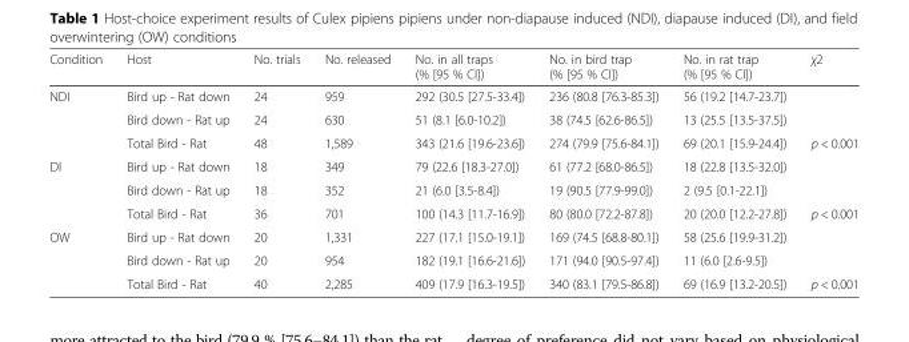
<table><thead><tr><td>Condition</td><td>Host</td><td>No. trials</td><td>No. released</td><td>No. in all traps (% [95 % CI])</td><td>No. in bird trap (% [95 % CI])</td><td>No. in rat trap (% [95 % CI])</td><td>χ2</td></tr></thead><tbody><tr><td rowspan="3">NDI</td><td>Bird up - Rat down</td><td>24</td><td>959</td><td>292 (30.5 [27.5-33.4])</td><td>236 (80.8 [76.3-85.3])</td><td>56 (19.2 [14.7-23.7])</td><td></td></tr><tr><td>Bird down - Rat up</td><td>24</td><td>630</td><td>51 (8.1 [6.0-10.2])</td><td>38 (74.5 [62.6-86.5])</td><td>13 (25.5 [13.5-37.5])</td><td></td></tr><tr><td>Total Bird - Rat</td><td>48</td><td>1,589</td><td>343 (21.6 [19.6-23.6])</td><td>274 (79.9 [75.6-84.1])</td><td>69 (20.1 [15.9-24.4])</td><td>p &lt; 0.001</td></tr><tr><td rowspan="3">DI</td><td>Bird up - Rat down</td><td>18</td><td>349</td><td>79 (22.6 [18.3-27.0])</td><td>61 (77.2 [68.0-86.5])</td><td>18 (22.8 [13.5-32.0])</td><td></td></tr><tr><td>Bird down - Rat up</td><td>18</td><td>352</td><td>21 (6.0 [3.5-8.4])</td><td>19 (90.5 [77.9-99.0])</td><td>2 (9.5 [0.1-22.1])</td><td></td></tr><tr><td>Total Bird - Rat</td><td>36</td><td>701</td><td>100 (14.3 [11.7-16.9])</td><td>80 (80.0 [72.2-87.8])</td><td>20 (20.0 [12.2-27.8])</td><td>p &lt; 0.001</td></tr><tr><td rowspan="3">OW</td><td>Bird up - Rat down</td><td>20</td><td>1,331</td><td>227 (17.1 [15.0-19.1])</td><td>169 (74.5 [68.8-80.1])</td><td>58 (25.6 [19.9-31.2])</td><td></td></tr><tr><td>Bird down - Rat up</td><td>20</td><td>954</td><td>182 (19.1 [16.6-21.6])</td><td>171 (94.0 [90.5-97.4])</td><td>11 (6.0 [2.6-9.5])</td><td></td></tr><tr><td>Total Bird - Rat</td><td>40</td><td>2,285</td><td>409 (17.9 [16.3-19.5])</td><td>340 (83.1 [79.5-86.8])</td><td>69 (16.9 [13.2-20.5])</td><td>p &lt; 0.001</td></tr></tbody></table>